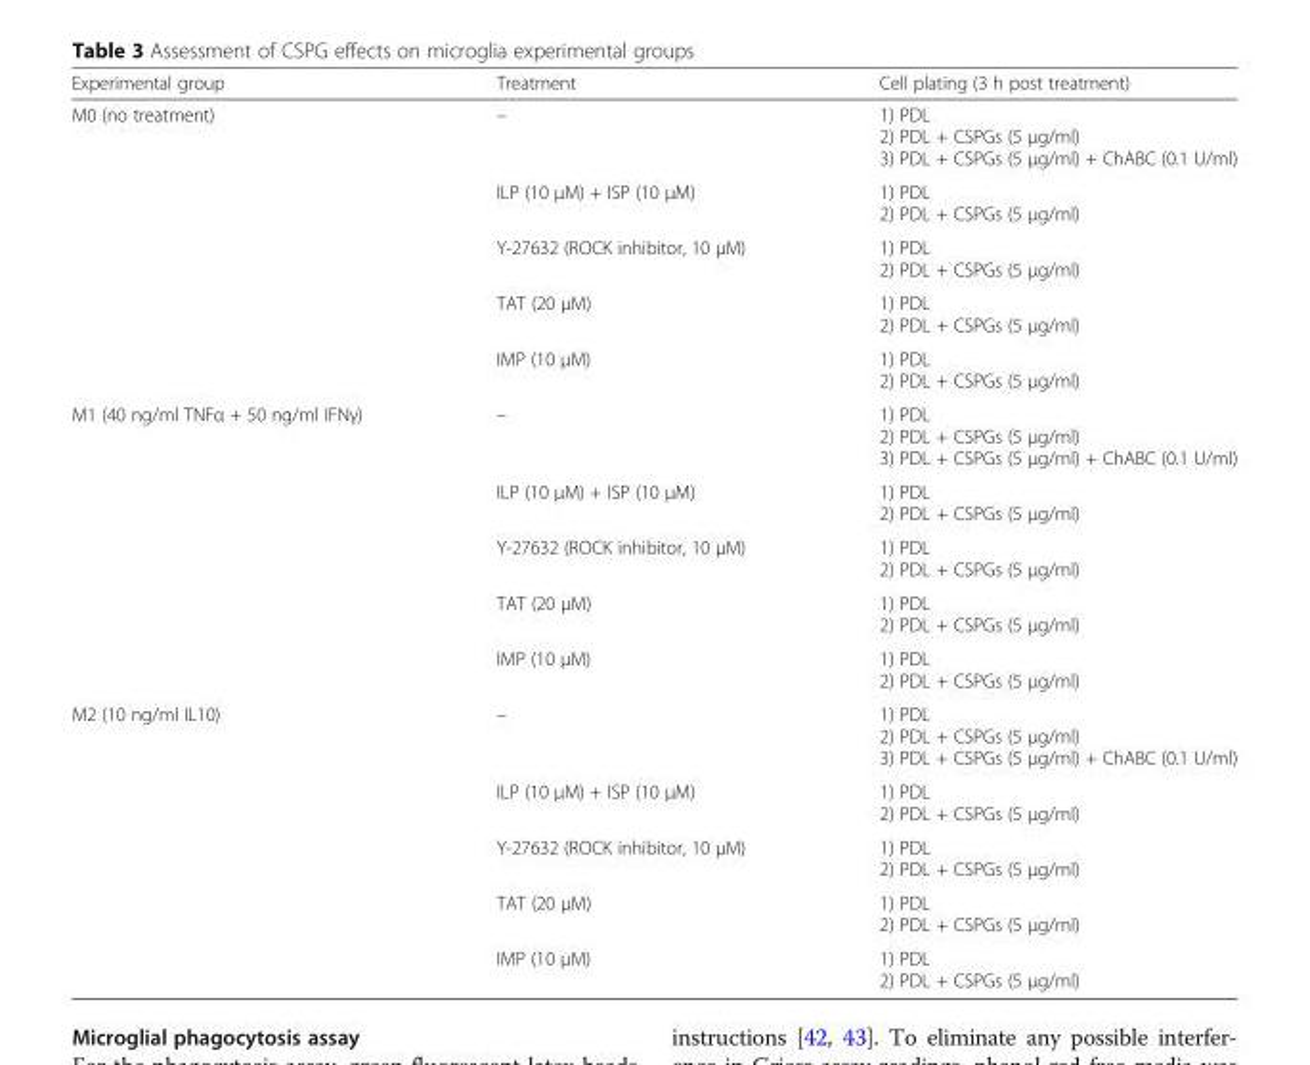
<table><thead><tr><td>Experimental group</td><td>Treatment</td><td>Cell plating (3 h post treatment)</td></tr></thead><tbody><tr><td rowspan="5">M0 (no treatment)</td><td>–</td><td>1) PDL 2) PDL + CSPGs (5 μg/ml) 3) PDL + CSPGs (5 μg/ml) + ChABC (0.1 U/ml)</td></tr><tr><td>ILP (10 μM) + ISP (10 μM)</td><td>1) PDL 2) PDL + CSPGs (5 μg/ml)</td></tr><tr><td>Y-27632 (ROCK inhibitor, 10 μM)</td><td>1) PDL 2) PDL + CSPGs (5 μg/ml)</td></tr><tr><td>TAT (20 μM)</td><td>1) PDL 2) PDL + CSPGs (5 μg/ml)</td></tr><tr><td>IMP (10 μM)</td><td>1) PDL 2) PDL + CSPGs (5 μg/ml)</td></tr><tr><td rowspan="5">M1 (40 ng/ml TNFα + 50 ng/ml IFNγ)</td><td>–</td><td>1) PDL 2) PDL + CSPGs (5 μg/ml) 3) PDL + CSPGs (5 μg/ml) + ChABC (0.1 U/ml)</td></tr><tr><td>ILP (10 μM) + ISP (10 μM)</td><td>1) PDL 2) PDL + CSPGs (5 μg/ml)</td></tr><tr><td>Y-27632 (ROCK inhibitor, 10 μM)</td><td>1) PDL 2) PDL + CSPGs (5 μg/ml)</td></tr><tr><td>TAT (20 μM)</td><td>1) PDL 2) PDL + CSPGs (5 μg/ml)</td></tr><tr><td>IMP (10 μM)</td><td>1) PDL 2) PDL + CSPGs (5 μg/ml)</td></tr><tr><td rowspan="5">M2 (10 ng/ml IL10)</td><td>–</td><td>1) PDL 2) PDL + CSPGs (5 μg/ml) 3) PDL + CSPGs (5 μg/ml) + ChABC (0.1 U/ml)</td></tr><tr><td>ILP (10 μM) + ISP (10 μM)</td><td>1) PDL 2) PDL + CSPGs (5 μg/ml)</td></tr><tr><td>Y-27632 (ROCK inhibitor, 10 μM)</td><td>1) PDL 2) PDL + CSPGs (5 μg/ml)</td></tr><tr><td>TAT (20 μM)</td><td>1) PDL 2) PDL + CSPGs (5 μg/ml)</td></tr><tr><td>IMP (10 μM)</td><td>1) PDL 2) PDL + CSPGs (5 μg/ml)</td></tr></tbody></table>